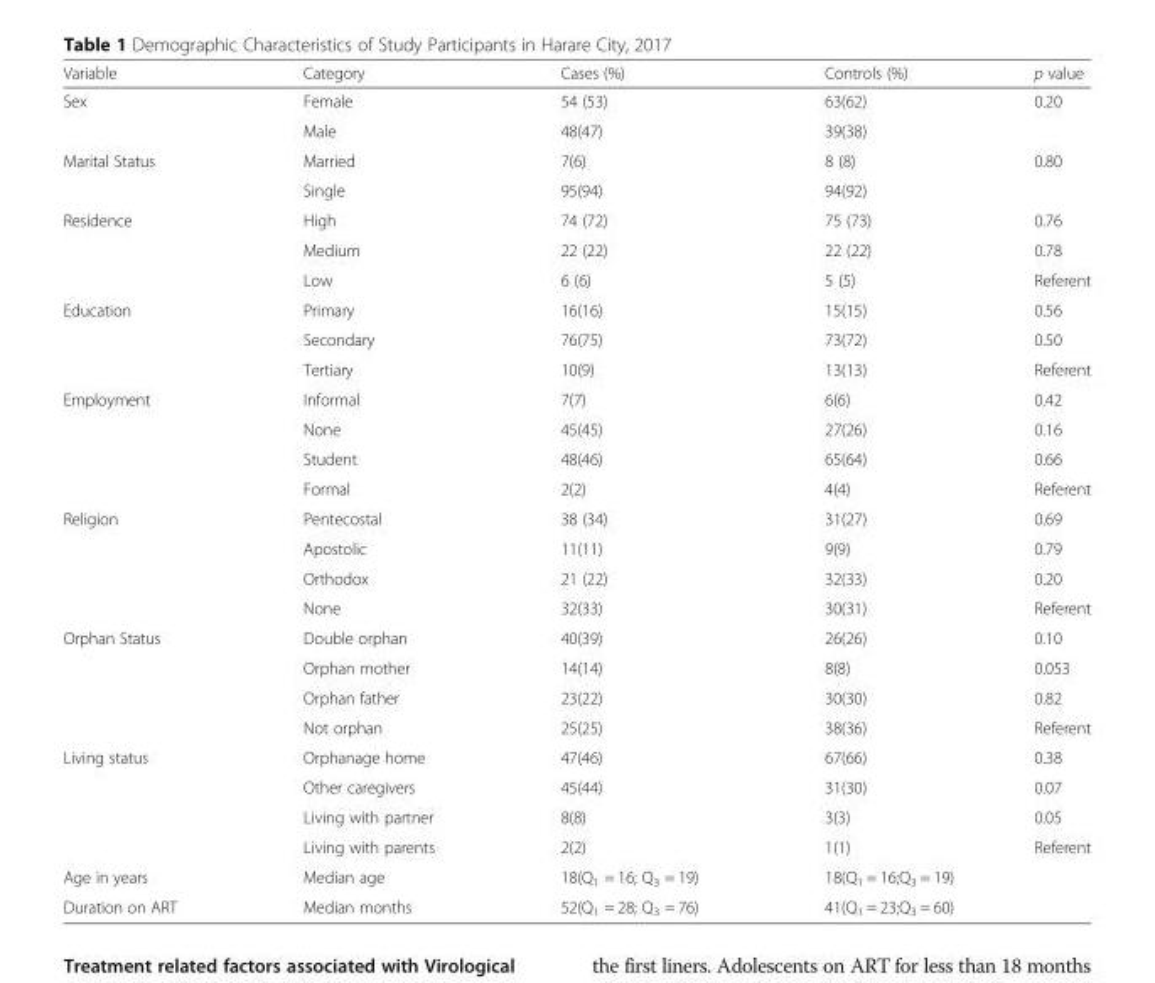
<table><thead><tr><td>Variable</td><td>Category</td><td>Cases (%)</td><td>Controls (%)</td><td>p value</td></tr></thead><tbody><tr><td rowspan="2">Sex</td><td>Female</td><td>54 (53)</td><td>63(62)</td><td>0.20</td></tr><tr><td>Male</td><td>48(47)</td><td>39(38)</td><td></td></tr><tr><td rowspan="2">Marital Status</td><td>Married</td><td>7(6)</td><td>8 (8)</td><td>0.80</td></tr><tr><td>Single</td><td>95(94)</td><td>94(92)</td><td></td></tr><tr><td rowspan="3">Residence</td><td>High</td><td>74 (72)</td><td>75 (73)</td><td>0.76</td></tr><tr><td>Medium</td><td>22 (22)</td><td>22 (22)</td><td>0.78</td></tr><tr><td>Low</td><td>6 (6)</td><td>5 (5)</td><td>Referent</td></tr><tr><td rowspan="3">Education</td><td>Primary</td><td>16(16)</td><td>15(15)</td><td>0.56</td></tr><tr><td>Secondary</td><td>76(75)</td><td>73(72)</td><td>0.50</td></tr><tr><td>Tertiary</td><td>10(9)</td><td>13(13)</td><td>Referent</td></tr><tr><td rowspan="4">Employment</td><td>Informal</td><td>7(7)</td><td>6(6)</td><td>0.42</td></tr><tr><td>None</td><td>45(45)</td><td>27(26)</td><td>0.16</td></tr><tr><td>Student</td><td>48(46)</td><td>65(64)</td><td>0.66</td></tr><tr><td>Formal</td><td>2(2)</td><td>4(4)</td><td>Referent</td></tr><tr><td rowspan="4">Religion</td><td>Pentecostal</td><td>38 (34)</td><td>31(27)</td><td>0.69</td></tr><tr><td>Apostolic</td><td>11(11)</td><td>9(9)</td><td>0.79</td></tr><tr><td>Orthodox</td><td>21 (22)</td><td>32(33)</td><td>0.20</td></tr><tr><td>None</td><td>32(33)</td><td>30(31)</td><td>Referent</td></tr><tr><td rowspan="4">Orphan Status</td><td>Double orphan</td><td>40(39)</td><td>26(26)</td><td>0.10</td></tr><tr><td>Orphan mother</td><td>14(14)</td><td>8(8)</td><td>0.053</td></tr><tr><td>Orphan father</td><td>23(22)</td><td>30(30)</td><td>0.82</td></tr><tr><td>Not orphan</td><td>25(25)</td><td>38(36)</td><td>Referent</td></tr><tr><td rowspan="4">Living status</td><td>Orphanage home</td><td>47(46)</td><td>67(66)</td><td>0.38</td></tr><tr><td>Other caregivers</td><td>45(44)</td><td>31(30)</td><td>0.07</td></tr><tr><td>Living with partner</td><td>8(8)</td><td>3(3)</td><td>0.05</td></tr><tr><td>Living with parents</td><td>2(2)</td><td>1(1)</td><td>Referent</td></tr><tr><td>Age in years</td><td>Median age</td><td>18(Q<sub>1</sub> = 16; Q<sub>3</sub> = 19)</td><td colspan="2">18(Q<sub>1</sub> = 16;Q<sub>3</sub> = 19)</td></tr><tr><td>Duration on ART</td><td>Median months</td><td>52(Q<sub>1</sub> = 28; Q<sub>3</sub> = 76)</td><td colspan="2">41(Q<sub>1</sub> = 23;Q<sub>3</sub> = 60)</td></tr></tbody></table>